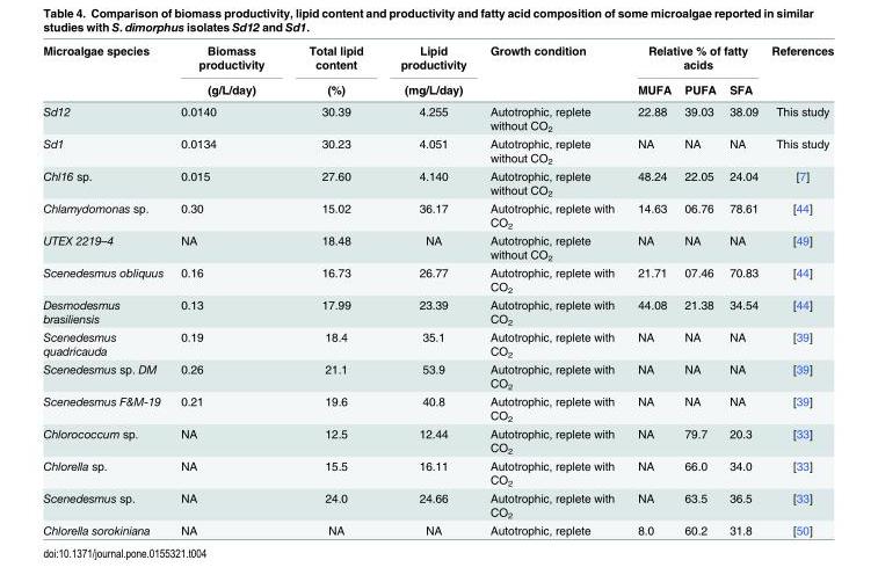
<table><thead><tr><td rowspan="2">Microalgae species</td><td rowspan="2">Biomass productivity (g/L/day)</td><td rowspan="2">Total lipid content (%)</td><td rowspan="2">Lipid productivity (mg/L/day)</td><td rowspan="2">Growth condition</td><td colspan="3">Relative % of fatty acids</td><td rowspan="2">References</td></tr><tr><td>MUFA</td><td>PUFA</td><td>SFA</td></tr></thead><tbody><tr><td>Sd12</td><td>0.0140</td><td>30.39</td><td>4.255</td><td>Autotrophic, replete without CO<sub>2</sub></td><td>22.88</td><td>39.03</td><td>38.09</td><td>This study</td></tr><tr><td>Sd1</td><td>0.0134</td><td>30.23</td><td>4.051</td><td>Autotrophic, replete without CO<sub>2</sub></td><td>NA</td><td>NA</td><td>NA</td><td>This study</td></tr><tr><td>Chl16 sp.</td><td>0.015</td><td>27.60</td><td>4.140</td><td>Autotrophic, replete without CO<sub>2</sub></td><td>48.24</td><td>22.05</td><td>24.04</td><td>[7]</td></tr><tr><td>Chlamydomonas sp.</td><td>0.30</td><td>15.02</td><td>36.17</td><td>Autotrophic, replete with CO<sub>2</sub></td><td>14.63</td><td>06.76</td><td>78.61</td><td>[44]</td></tr><tr><td>UTEX 2219–4</td><td>NA</td><td>18.48</td><td>NA</td><td>Autotrophic, replete without CO<sub>2</sub></td><td>NA</td><td>NA</td><td>NA</td><td>[49]</td></tr><tr><td>Scenedesmus obliquus</td><td>0.16</td><td>16.73</td><td>26.77</td><td>Autotrophic, replete with CO<sub>2</sub></td><td>21.71</td><td>07.46</td><td>70.83</td><td>[44]</td></tr><tr><td>Desmodesmus brasiliensis</td><td>0.13</td><td>17.99</td><td>23.39</td><td>Autotrophic, replete with CO<sub>2</sub></td><td>44.08</td><td>21.38</td><td>34.54</td><td>[44]</td></tr><tr><td>Scenedesmus quadricauda</td><td>0.19</td><td>18.4</td><td>35.1</td><td>Autotrophic, replete with CO<sub>2</sub></td><td>NA</td><td>NA</td><td>NA</td><td>[39]</td></tr><tr><td>Scenedesmus sp. DM</td><td>0.26</td><td>21.1</td><td>53.9</td><td>Autotrophic, replete with CO<sub>2</sub></td><td>NA</td><td>NA</td><td>NA</td><td>[39]</td></tr><tr><td>Scenedesmus F&amp;M-19</td><td>0.21</td><td>19.6</td><td>40.8</td><td>Autotrophic, replete with CO<sub>2</sub></td><td>NA</td><td>NA</td><td>NA</td><td>[39]</td></tr><tr><td>Chlorococcum sp.</td><td>NA</td><td>12.5</td><td>12.44</td><td>Autotrophic, replete with CO<sub>2</sub></td><td>NA</td><td>79.7</td><td>20.3</td><td>[33]</td></tr><tr><td>Chlorella sp.</td><td>NA</td><td>15.5</td><td>16.11</td><td>Autotrophic, replete with CO<sub>2</sub></td><td>NA</td><td>66.0</td><td>34.0</td><td>[33]</td></tr><tr><td>Scenedesmus sp.</td><td>NA</td><td>24.0</td><td>24.66</td><td>Autotrophic, replete with CO<sub>2</sub></td><td>NA</td><td>63.5</td><td>36.5</td><td>[33]</td></tr><tr><td>Chlorella sorokiniana</td><td>NA</td><td>NA</td><td>NA</td><td>Autotrophic, replete</td><td>8.0</td><td>60.2</td><td>31.8</td><td>[50]</td></tr></tbody></table>